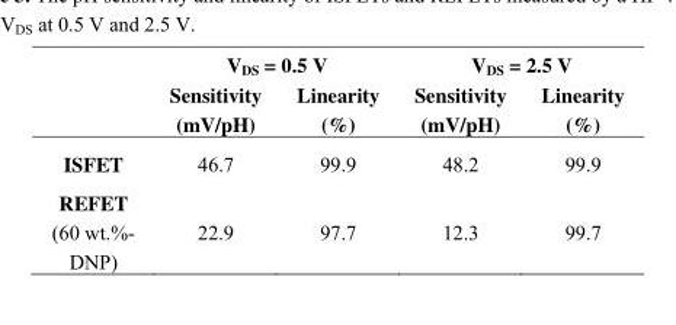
<table><thead><tr><td rowspan="2"></td><td colspan="2">V<sub>DS</sub> = 0.5 V</td><td colspan="2">V<sub>DS</sub> = 2.5 V</td></tr><tr><td>Sensitivity (mV/pH)</td><td>Linearity (%)</td><td>Sensitivity (mV/pH)</td><td>Linearity (%)</td></tr></thead><tbody><tr><td>ISFET</td><td>46.7</td><td>99.9</td><td>48.2</td><td>99.9</td></tr><tr><td>REFET (60 wt.%- DNP)</td><td>22.9</td><td>97.7</td><td>12.3</td><td>99.7</td></tr></tbody></table>